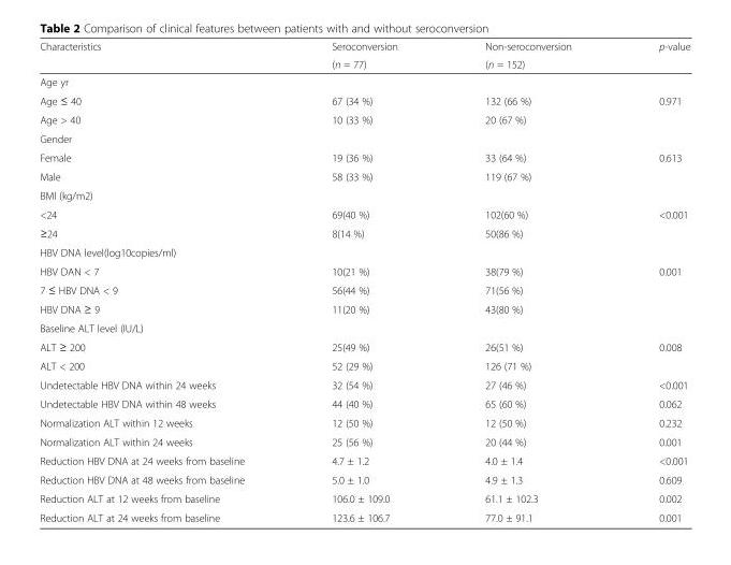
<table><thead><tr><td rowspan="2">Characteristics</td><td rowspan="2">Seroconversion (n = 77)</td><td rowspan="2">Non-seroconversion (n = 152)</td><td rowspan="2">p-value</td></tr><tr></tr></thead><tbody><tr><td colspan="4">Age yr</td></tr><tr><td>Age ≤ 40</td><td>67 (34 %)</td><td>132 (66 %)</td><td>0.971</td></tr><tr><td>Age &gt; 40</td><td>10 (33 %)</td><td>20 (67 %)</td><td></td></tr><tr><td colspan="4">Gender</td></tr><tr><td>Female</td><td>19 (36 %)</td><td>33 (64 %)</td><td>0.613</td></tr><tr><td>Male</td><td>58 (33 %)</td><td>119 (67 %)</td><td></td></tr><tr><td colspan="4">BMI (kg/m2)</td></tr><tr><td>&lt;24</td><td>69(40 %)</td><td>102(60 %)</td><td>&lt;0.001</td></tr><tr><td>≥24</td><td>8(14 %)</td><td>50(86 %)</td><td></td></tr><tr><td colspan="4">HBV DNA level(log10copies/ml)</td></tr><tr><td>HBV DAN &lt; 7</td><td>10(21 %)</td><td>38(79 %)</td><td>0.001</td></tr><tr><td>7 ≤ HBV DNA &lt; 9</td><td>56(44 %)</td><td>71(56 %)</td><td></td></tr><tr><td>HBV DNA ≥ 9</td><td>11(20 %)</td><td>43(80 %)</td><td></td></tr><tr><td colspan="4">Baseline ALT level (IU/L)</td></tr><tr><td>ALT ≥ 200</td><td>25(49 %)</td><td>26(51 %)</td><td>0.008</td></tr><tr><td>ALT &lt; 200</td><td>52 (29 %)</td><td>126 (71 %)</td><td></td></tr><tr><td>Undetectable HBV DNA within 24 weeks</td><td>32 (54 %)</td><td>27 (46 %)</td><td>&lt;0.001</td></tr><tr><td>Undetectable HBV DNA within 48 weeks</td><td>44 (40 %)</td><td>65 (60 %)</td><td>0.062</td></tr><tr><td>Normalization ALT within 12 weeks</td><td>12 (50 %)</td><td>12 (50 %)</td><td>0.232</td></tr><tr><td>Normalization ALT within 24 weeks</td><td>25 (56 %)</td><td>20 (44 %)</td><td>0.001</td></tr><tr><td>Reduction HBV DNA at 24 weeks from baseline</td><td>4.7 ± 1.2</td><td>4.0 ± 1.4</td><td>&lt;0.001</td></tr><tr><td>Reduction HBV DNA at 48 weeks from baseline</td><td>5.0 ± 1.0</td><td>4.9 ± 1.3</td><td>0.609</td></tr><tr><td>Reduction ALT at 12 weeks from baseline</td><td>106.0 ± 109.0</td><td>61.1 ± 102.3</td><td>0.002</td></tr><tr><td>Reduction ALT at 24 weeks from baseline</td><td>123.6 ± 106.7</td><td>77.0 ± 91.1</td><td>0.001</td></tr></tbody></table>